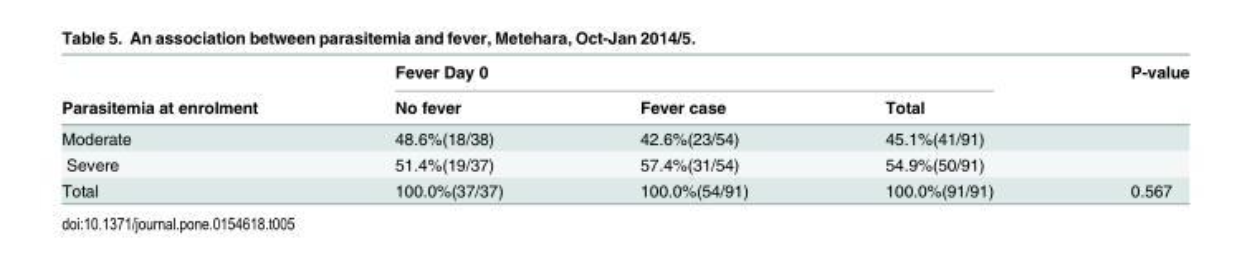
<table><thead><tr><td rowspan="2">Parasitemia at enrolment</td><td colspan="3">Fever Day 0</td><td rowspan="2">P-value</td></tr><tr><td>No fever</td><td>Fever case</td><td>Total</td></tr></thead><tbody><tr><td>Moderate</td><td>48.6%(18/38)</td><td>42.6%(23/54)</td><td>45.1%(41/91)</td><td></td></tr><tr><td>Severe</td><td>51.4%(19/37)</td><td>57.4%(31/54)</td><td>54.9%(50/91)</td><td></td></tr><tr><td>Total</td><td>100.0%(37/37)</td><td>100.0%(54/91)</td><td>100.0%(91/91)</td><td>0.567</td></tr></tbody></table>